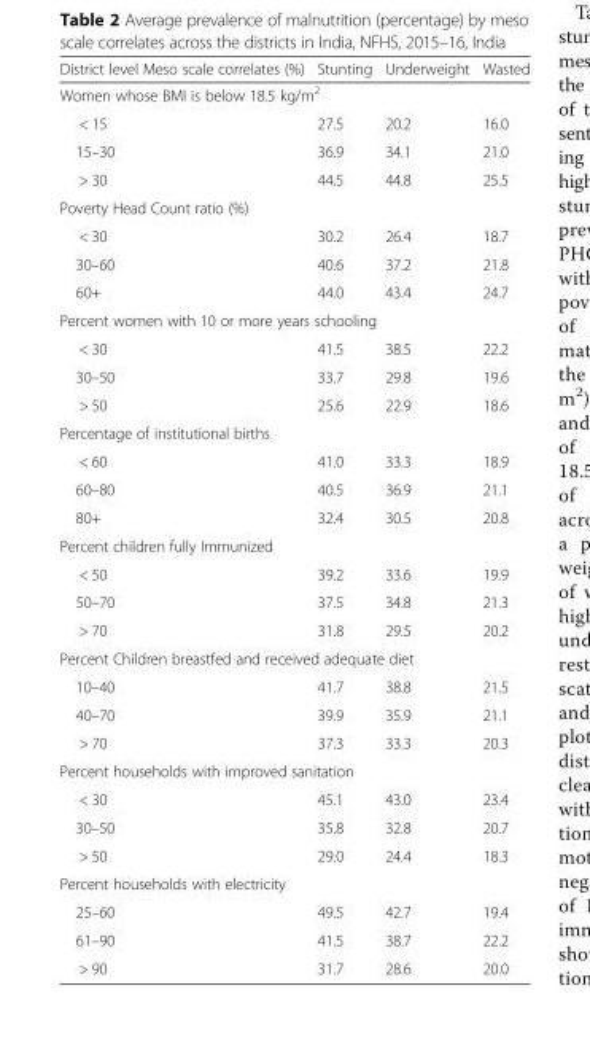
<table><thead><tr><td>District level Meso scale correlates (%)</td><td>Stunting</td><td>Underweight</td><td>Wasted</td></tr></thead><tbody><tr><td colspan="4">Women whose BMI is below 18.5 kg/m<sup>2</sup></td></tr><tr><td>&lt; 15</td><td>27.5</td><td>20.2</td><td>16.0</td></tr><tr><td>15–30</td><td>36.9</td><td>34.1</td><td>21.0</td></tr><tr><td>&gt; 30</td><td>44.5</td><td>44.8</td><td>25.5</td></tr><tr><td colspan="4">Poverty Head Count ratio (%)</td></tr><tr><td>&lt; 30</td><td>30.2</td><td>26.4</td><td>18.7</td></tr><tr><td>30–60</td><td>40.6</td><td>37.2</td><td>21.8</td></tr><tr><td>60+</td><td>44.0</td><td>43.4</td><td>24.7</td></tr><tr><td colspan="4">Percent women with 10 or more years schooling</td></tr><tr><td>&lt; 30</td><td>41.5</td><td>38.5</td><td>22.2</td></tr><tr><td>30–50</td><td>33.7</td><td>29.8</td><td>19.6</td></tr><tr><td>&gt; 50</td><td>25.6</td><td>22.9</td><td>18.6</td></tr><tr><td colspan="4">Percentage of institutional births</td></tr><tr><td>&lt; 60</td><td>41.0</td><td>33.3</td><td>18.9</td></tr><tr><td>60–80</td><td>40.5</td><td>36.9</td><td>21.1</td></tr><tr><td>80+</td><td>32.4</td><td>30.5</td><td>20.8</td></tr><tr><td colspan="4">Percent children fully Immunized</td></tr><tr><td>&lt; 50</td><td>39.2</td><td>33.6</td><td>19.9</td></tr><tr><td>50–70</td><td>37.5</td><td>34.8</td><td>21.3</td></tr><tr><td>&gt; 70</td><td>31.8</td><td>29.5</td><td>20.2</td></tr><tr><td colspan="4">Percent Children breastfed and received adequate diet</td></tr><tr><td>10–40</td><td>41.7</td><td>38.8</td><td>21.5</td></tr><tr><td>40–70</td><td>39.9</td><td>35.9</td><td>21.1</td></tr><tr><td>&gt; 70</td><td>37.3</td><td>33.3</td><td>20.3</td></tr><tr><td colspan="4">Percent households with improved sanitation</td></tr><tr><td>&lt; 30</td><td>45.1</td><td>43.0</td><td>23.4</td></tr><tr><td>30–50</td><td>35.8</td><td>32.8</td><td>20.7</td></tr><tr><td>&gt; 50</td><td>29.0</td><td>24.4</td><td>18.3</td></tr><tr><td colspan="4">Percent households with electricity</td></tr><tr><td>25–60</td><td>49.5</td><td>42.7</td><td>19.4</td></tr><tr><td>61–90</td><td>41.5</td><td>38.7</td><td>22.2</td></tr><tr><td>&gt; 90</td><td>31.7</td><td>28.6</td><td>20.0</td></tr></tbody></table>